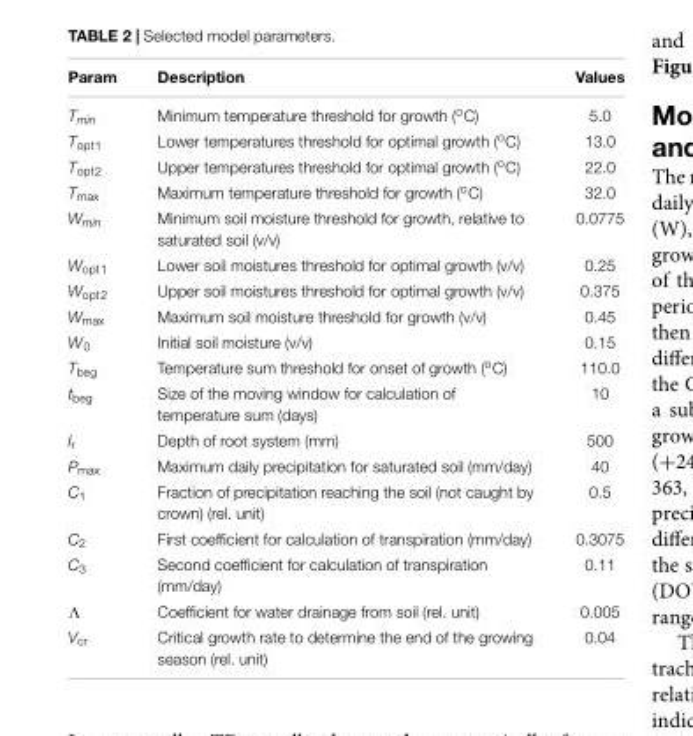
<table><thead><tr><td>Param</td><td>Description</td><td>Values</td></tr></thead><tbody><tr><td>T<sub>min</sub></td><td>Minimum temperature threshold for growth (<sup>o</sup>C)</td><td>5.0</td></tr><tr><td>T<sub>opt1</sub></td><td>Lower temperatures threshold for optimal growth (<sup>o</sup>C)</td><td>13.0</td></tr><tr><td>T<sub>opt2</sub></td><td>Upper temperatures threshold for optimal growth (<sup>o</sup>C)</td><td>22.0</td></tr><tr><td>T<sub>max</sub></td><td>Maximum temperature threshold for growth (<sup>o</sup>C)</td><td>32.0</td></tr><tr><td>W<sub>min</sub></td><td>Minimum soil moisture threshold for growth, relative to saturated soil (v/v)</td><td>0.0775</td></tr><tr><td>W<sub>opt1</sub></td><td>Lower soil moistures threshold for optimal growth (v/v)</td><td>0.25</td></tr><tr><td>W<sub>opt2</sub></td><td>Upper soil moistures threshold for optimal growth (v/v)</td><td>0.375</td></tr><tr><td>W<sub>max</sub></td><td>Maximum soil moisture threshold for growth (v/v)</td><td>0.45</td></tr><tr><td>W<sub>0</sub></td><td>Initial soil moisture (v/v)</td><td>0.15</td></tr><tr><td>T<sub>beg</sub></td><td>Temperature sum threshold for onset of growth (<sup>o</sup>C)</td><td>110.0</td></tr><tr><td>t<sub>beg</sub></td><td>Size of the moving window for calculation of temperature sum (days)</td><td>10</td></tr><tr><td>l<sub>r</sub></td><td>Depth of root system (mm)</td><td>500</td></tr><tr><td>P<sub>max</sub></td><td>Maximum daily precipitation for saturated soil (mm/day)</td><td>40</td></tr><tr><td>C<sub>1</sub></td><td>Fraction of precipitation reaching the soil (not caught by crown) (rel. unit)</td><td>0.5</td></tr><tr><td>C<sub>2</sub></td><td>First coefficient for calculation of transpiration (mm/day)</td><td>0.3075</td></tr><tr><td>C<sub>3</sub></td><td>Second coefficient for calculation of transpiration (mm/day)</td><td>0.11</td></tr><tr><td>Λ</td><td>Coefficient for water drainage from soil (rel. unit)</td><td>0.005</td></tr><tr><td>V<sub>cr</sub></td><td>Critical growth rate to determine the end of the growing season (rel. unit)</td><td>0.04</td></tr></tbody></table>